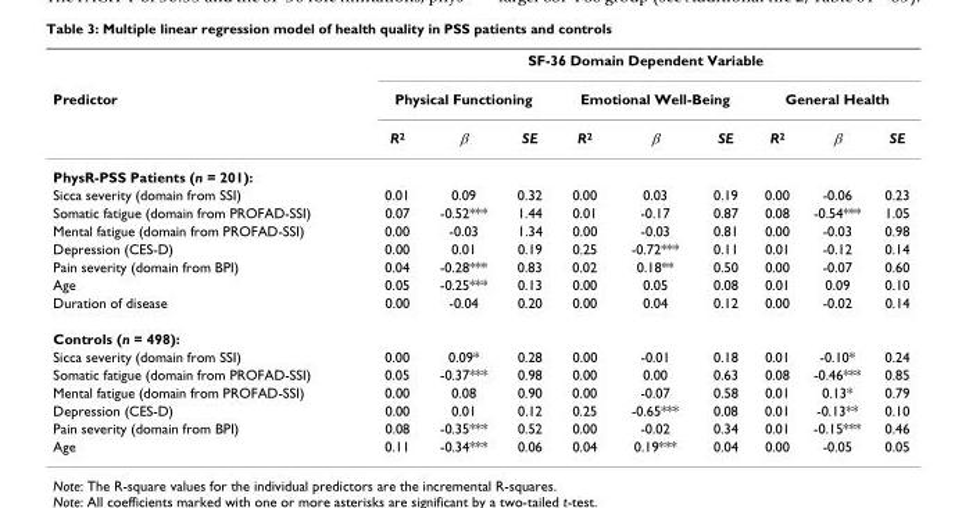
<table><thead><tr><td rowspan="3">Predictor</td><td colspan="9">SF-36 Domain Dependent Variable</td></tr><tr><td colspan="3">Physical Functioning</td><td colspan="3">Emotional Well-Being</td><td colspan="3">General Health</td></tr><tr><td>R<sup>2</sup></td><td>β</td><td>SE</td><td>R<sup>2</sup></td><td>β</td><td>SE</td><td>R<sup>2</sup></td><td>β</td><td>SE</td></tr></thead><tbody><tr><td colspan="10">PhysR-PSS Patients (n = 201):</td></tr><tr><td>Sicca severity (domain from SSI)</td><td>0.01</td><td>0.09</td><td>0.32</td><td>0.00</td><td>0.03</td><td>0.19</td><td>0.00</td><td>-0.06</td><td>0.23</td></tr><tr><td>Somatic fatigue (domain from PROFAD-SSI)</td><td>0.07</td><td>-0.52***</td><td>1.44</td><td>0.01</td><td>-0.17</td><td>0.87</td><td>0.08</td><td>-0.54***</td><td>1.05</td></tr><tr><td>Mental fatigue (domain from PROFAD-SSI)</td><td>0.00</td><td>-0.03</td><td>1.34</td><td>0.00</td><td>-0.03</td><td>0.81</td><td>0.00</td><td>-0.03</td><td>0.98</td></tr><tr><td>Depression (CES-D)</td><td>0.00</td><td>0.01</td><td>0.19</td><td>0.25</td><td>-0.72***</td><td>0.11</td><td>0.01</td><td>-0.12</td><td>0.14</td></tr><tr><td>Pain severity (domain from BPI)</td><td>0.04</td><td>-0.28***</td><td>0.83</td><td>0.02</td><td>0.18**</td><td>0.50</td><td>0.00</td><td>-0.07</td><td>0.60</td></tr><tr><td>Age</td><td>0.05</td><td>-0.25***</td><td>0.13</td><td>0.00</td><td>0.05</td><td>0.08</td><td>0.01</td><td>0.09</td><td>0.10</td></tr><tr><td>Duration of disease</td><td>0.00</td><td>-0.04</td><td>0.20</td><td>0.00</td><td>0.04</td><td>0.12</td><td>0.00</td><td>-0.02</td><td>0.14</td></tr><tr><td colspan="10">Controls (n = 498):</td></tr><tr><td>Sicca severity (domain from SSI)</td><td>0.00</td><td>0.09*</td><td>0.28</td><td>0.00</td><td>-0.01</td><td>0.18</td><td>0.01</td><td>-0.10*</td><td>0.24</td></tr><tr><td>Somatic fatigue (domain from PROFAD-SSI)</td><td>0.05</td><td>-0.37***</td><td>0.98</td><td>0.00</td><td>0.00</td><td>0.63</td><td>0.08</td><td>-0.46***</td><td>0.85</td></tr><tr><td>Mental fatigue (domain from PROFAD-SSI)</td><td>0.00</td><td>0.08</td><td>0.90</td><td>0.00</td><td>-0.07</td><td>0.58</td><td>0.01</td><td>0.13*</td><td>0.79</td></tr><tr><td>Depression (CES-D)</td><td>0.00</td><td>0.01</td><td>0.12</td><td>0.25</td><td>-0.65***</td><td>0.08</td><td>0.01</td><td>-0.13**</td><td>0.10</td></tr><tr><td>Pain severity (domain from BPI)</td><td>0.08</td><td>-0.35***</td><td>0.52</td><td>0.00</td><td>-0.02</td><td>0.34</td><td>0.01</td><td>-0.15***</td><td>0.46</td></tr><tr><td>Age</td><td>0.11</td><td>-0.34***</td><td>0.06</td><td>0.04</td><td>0.19***</td><td>0.04</td><td>0.00</td><td>-0.05</td><td>0.05</td></tr></tbody></table>